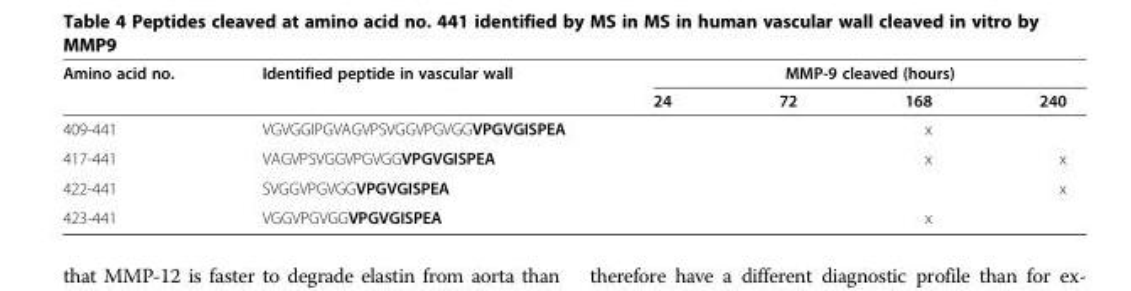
<table><thead><tr><td rowspan="2">Amino acid no.</td><td rowspan="2">Identified peptide in vascular wall</td><td colspan="4">MMP-9 cleaved (hours)</td></tr><tr><td>24</td><td>72</td><td>168</td><td>240</td></tr></thead><tbody><tr><td>409-441</td><td>VGVGGIPGVAGVPSVGGVPGVGGVPGVGISPEA</td><td></td><td></td><td>x</td><td></td></tr><tr><td>417-441</td><td>VAGVPSVGGVPGVGGVPGVGISPEA</td><td></td><td></td><td>x</td><td>x</td></tr><tr><td>422-441</td><td>SVGGVPGVGGVPGVGISPEA</td><td></td><td></td><td></td><td>x</td></tr><tr><td>423-441</td><td>VGGVPGVGGVPGVGISPEA</td><td></td><td></td><td>x</td><td></td></tr></tbody></table>